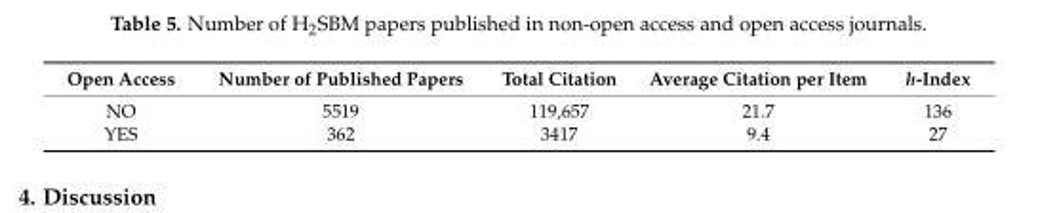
<table><thead><tr><td>Open Access</td><td>Number of Published Papers</td><td>Total Citation</td><td>Average Citation per Item</td><td>h-Index</td></tr></thead><tbody><tr><td>NO</td><td>5519</td><td>119,657</td><td>21.7</td><td>136</td></tr><tr><td>YES</td><td>362</td><td>3417</td><td>9.4</td><td>27</td></tr></tbody></table>